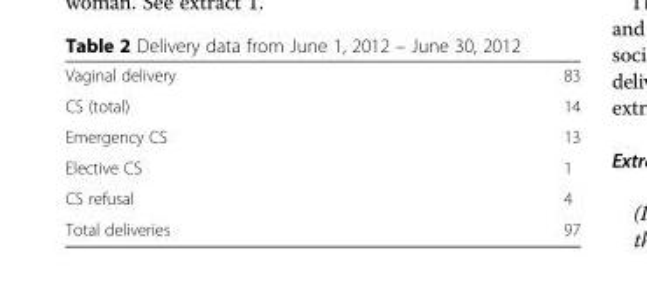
<table><tbody><tr><td>Vaginal delivery</td><td>83</td></tr><tr><td>CS (total)</td><td>14</td></tr><tr><td>Emergency CS</td><td>13</td></tr><tr><td>Elective CS</td><td>1</td></tr><tr><td>CS refusal</td><td>4</td></tr><tr><td>Total deliveries</td><td>97</td></tr></tbody></table>